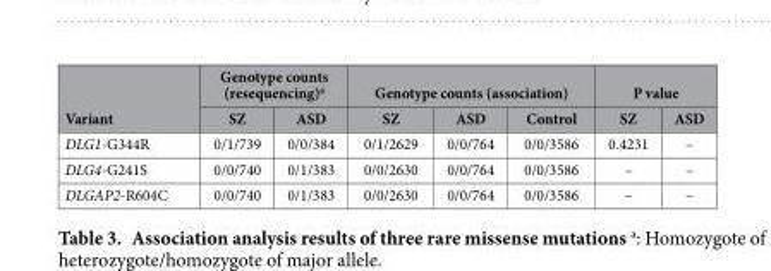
<table><thead><tr><td rowspan="2">Variant</td><td colspan="2">Genotype counts (resequencing)<sup>a</sup></td><td colspan="3">Genotype counts (association)</td><td colspan="2">P value</td></tr><tr><td>SZ</td><td>ASD</td><td>SZ</td><td>ASD</td><td>Control</td><td>SZ</td><td>ASD</td></tr></thead><tbody><tr><td>DLG1-G344R</td><td>0/1/739</td><td>0/0/384</td><td>0/1/2629</td><td>0/0/764</td><td>0/0/3586</td><td>0.4231</td><td>–</td></tr><tr><td>DLG4-G241S</td><td>0/0/740</td><td>0/1/383</td><td>0/0/2630</td><td>0/0/764</td><td>0/0/3586</td><td>–</td><td>–</td></tr><tr><td>DLGAP2-R604C</td><td>0/0/740</td><td>0/1/383</td><td>0/0/2630</td><td>0/0/764</td><td>0/0/3586</td><td>–</td><td>–</td></tr></tbody></table>